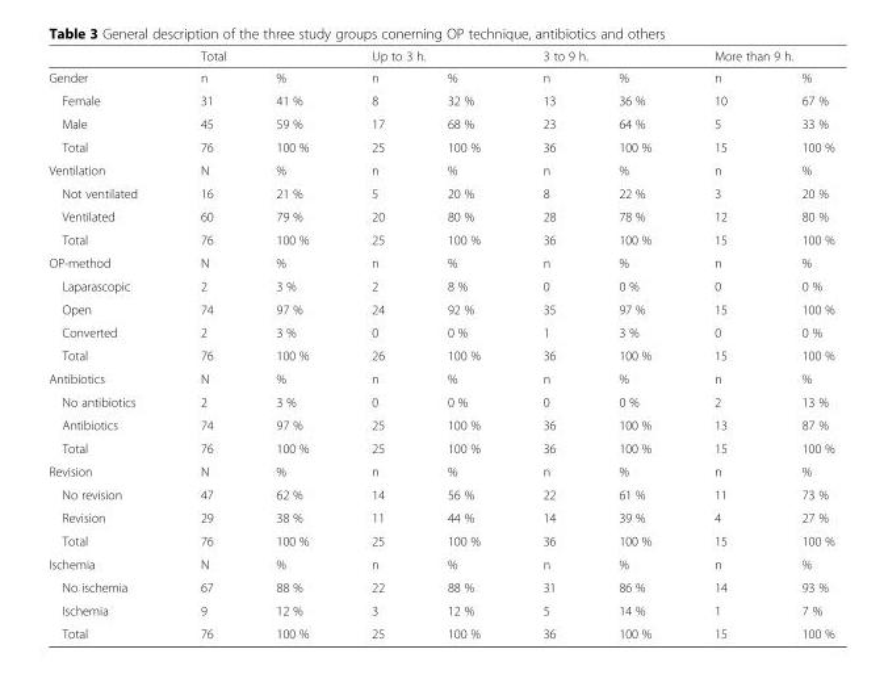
<table><thead><tr><td rowspan="2">Gender</td><td colspan="2">Total</td><td colspan="2">Up to 3 h.</td><td colspan="2">3 to 9 h.</td><td colspan="2">More than 9 h.</td></tr><tr><td>n</td><td>%</td><td>n</td><td>%</td><td>n</td><td>%</td><td>n</td><td>%</td></tr></thead><tbody><tr><td>Female</td><td>31</td><td>41 %</td><td>8</td><td>32 %</td><td>13</td><td>36 %</td><td>10</td><td>67 %</td></tr><tr><td>Male</td><td>45</td><td>59 %</td><td>17</td><td>68 %</td><td>23</td><td>64 %</td><td>5</td><td>33 %</td></tr><tr><td>Total</td><td>76</td><td>100 %</td><td>25</td><td>100 %</td><td>36</td><td>100 %</td><td>15</td><td>100 %</td></tr><tr><td>Ventilation</td><td>N</td><td>%</td><td>n</td><td>%</td><td>n</td><td>%</td><td>n</td><td>%</td></tr><tr><td>Not ventilated</td><td>16</td><td>21 %</td><td>5</td><td>20 %</td><td>8</td><td>22 %</td><td>3</td><td>20 %</td></tr><tr><td>Ventilated</td><td>60</td><td>79 %</td><td>20</td><td>80 %</td><td>28</td><td>78 %</td><td>12</td><td>80 %</td></tr><tr><td>Total</td><td>76</td><td>100 %</td><td>25</td><td>100 %</td><td>36</td><td>100 %</td><td>15</td><td>100 %</td></tr><tr><td>OP-method</td><td>N</td><td>%</td><td>n</td><td>%</td><td>n</td><td>%</td><td>n</td><td>%</td></tr><tr><td>Laparascopic</td><td>2</td><td>3 %</td><td>2</td><td>8 %</td><td>0</td><td>0 %</td><td>0</td><td>0 %</td></tr><tr><td>Open</td><td>74</td><td>97 %</td><td>24</td><td>92 %</td><td>35</td><td>97 %</td><td>15</td><td>100 %</td></tr><tr><td>Converted</td><td>2</td><td>3 %</td><td>0</td><td>0 %</td><td>1</td><td>3 %</td><td>0</td><td>0 %</td></tr><tr><td>Total</td><td>76</td><td>100 %</td><td>26</td><td>100 %</td><td>36</td><td>100 %</td><td>15</td><td>100 %</td></tr><tr><td>Antibiotics</td><td>N</td><td>%</td><td>n</td><td>%</td><td>n</td><td>%</td><td>n</td><td>%</td></tr><tr><td>No antibiotics</td><td>2</td><td>3 %</td><td>0</td><td>0 %</td><td>0</td><td>0 %</td><td>2</td><td>13 %</td></tr><tr><td>Antibiotics</td><td>74</td><td>97 %</td><td>25</td><td>100 %</td><td>36</td><td>100 %</td><td>13</td><td>87 %</td></tr><tr><td>Total</td><td>76</td><td>100 %</td><td>25</td><td>100 %</td><td>36</td><td>100 %</td><td>15</td><td>100 %</td></tr><tr><td>Revision</td><td>N</td><td>%</td><td>n</td><td>%</td><td>n</td><td>%</td><td>n</td><td>%</td></tr><tr><td>No revision</td><td>47</td><td>62 %</td><td>14</td><td>56 %</td><td>22</td><td>61 %</td><td>11</td><td>73 %</td></tr><tr><td>Revision</td><td>29</td><td>38 %</td><td>11</td><td>44 %</td><td>14</td><td>39 %</td><td>4</td><td>27 %</td></tr><tr><td>Total</td><td>76</td><td>100 %</td><td>25</td><td>100 %</td><td>36</td><td>100 %</td><td>15</td><td>100 %</td></tr><tr><td>Ischemia</td><td>N</td><td>%</td><td>n</td><td>%</td><td>n</td><td>%</td><td>n</td><td>%</td></tr><tr><td>No ischemia</td><td>67</td><td>88 %</td><td>22</td><td>88 %</td><td>31</td><td>86 %</td><td>14</td><td>93 %</td></tr><tr><td>Ischemia</td><td>9</td><td>12 %</td><td>3</td><td>12 %</td><td>5</td><td>14 %</td><td>1</td><td>7 %</td></tr><tr><td>Total</td><td>76</td><td>100 %</td><td>25</td><td>100 %</td><td>36</td><td>100 %</td><td>15</td><td>100 %</td></tr></tbody></table>